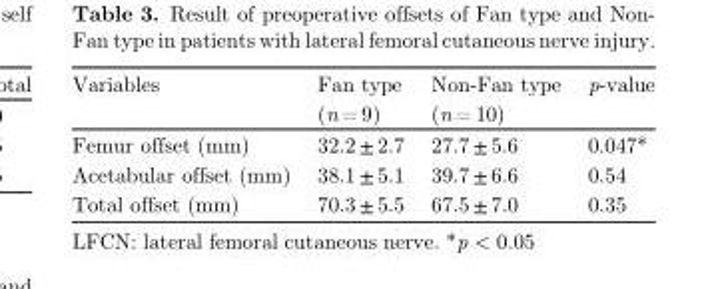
<table><thead><tr><td rowspan="2">Variables</td><td rowspan="2">Fan type (n = 9)</td><td rowspan="2">Non-Fan type (n = 10)</td><td rowspan="2">p-value</td></tr><tr></tr></thead><tbody><tr><td>Femur offset (mm)</td><td>32.2 ± 2.7</td><td>27.7 ± 5.6</td><td>0.047*</td></tr><tr><td>Acetabular offset (mm)</td><td>38.1 ± 5.1</td><td>39.7 ± 6.6</td><td>0.54</td></tr><tr><td>Total offset (mm)</td><td>70.3 ± 5.5</td><td>67.5 ± 7.0</td><td>0.35</td></tr></tbody></table>